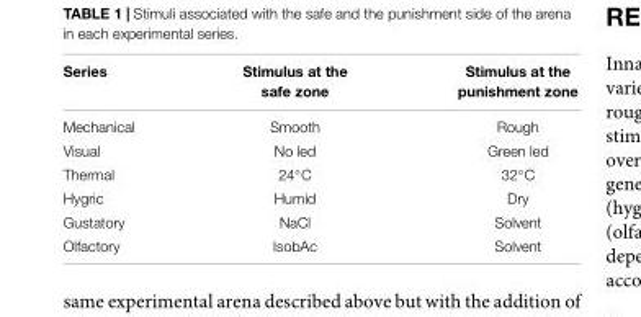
<table><thead><tr><td>Series</td><td>Stimulus at the safe zone</td><td>Stimulus at the punishment zone</td></tr></thead><tbody><tr><td>Mechanical</td><td>Smooth</td><td>Rough</td></tr><tr><td>Visual</td><td>No led</td><td>Green led</td></tr><tr><td>Thermal</td><td>24◦C</td><td>32◦C</td></tr><tr><td>Hygric</td><td>Humid</td><td>Dry</td></tr><tr><td>Gustatory</td><td>NaCl</td><td>Solvent</td></tr><tr><td>Olfactory</td><td>IsobAc</td><td>Solvent</td></tr></tbody></table>